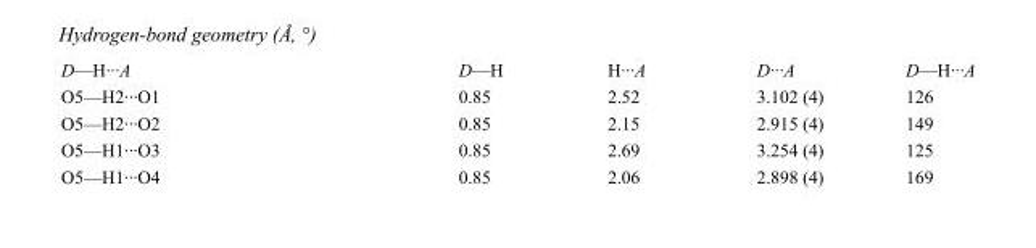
<table><tbody><tr><td>D—H···A</td><td>D—H</td><td>H···A</td><td>D···A</td><td>D—H···A</td></tr><tr><td>O5—H2···O1</td><td>0.85</td><td>2.52</td><td>3.102 (4)</td><td>126</td></tr><tr><td>O5—H2···O2</td><td>0.85</td><td>2.15</td><td>2.915 (4)</td><td>149</td></tr><tr><td>O5—H1···O3</td><td>0.85</td><td>2.69</td><td>3.254 (4)</td><td>125</td></tr><tr><td>O5—H1···O4</td><td>0.85</td><td>2.06</td><td>2.898 (4)</td><td>169</td></tr></tbody></table>